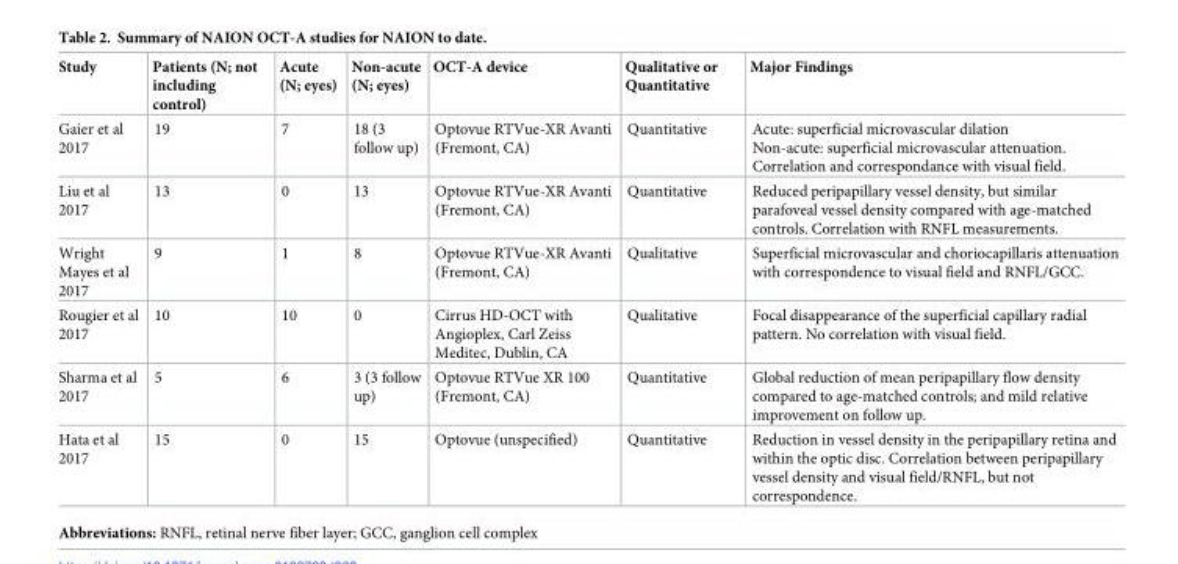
<table><thead><tr><td>Study</td><td>Patients (N; not including control)</td><td>Acute (N; eyes)</td><td>Non-acute (N; eyes)</td><td>OCT-A device</td><td>Qualitative or Quantitative</td><td>Major Findings</td></tr></thead><tbody><tr><td>Gaier et al 2017</td><td>19</td><td>7</td><td>18 (3 follow up)</td><td>Optovue RTVue-XR Avanti (Fremont, CA)</td><td>Quantitative</td><td>Acute: superficial microvascular dilation Non-acute: superficial microvascular attenuation. Correlation and correspondance with visual field.</td></tr><tr><td>Liu et al 2017</td><td>13</td><td>0</td><td>13</td><td>Optovue RTVue-XR Avanti (Fremont, CA)</td><td>Quantitative</td><td>Reduced peripapillary vessel density, but similar parafoveal vessel density compared with age-matched controls. Correlation with RNFL measurements.</td></tr><tr><td>Wright Mayes et al 2017</td><td>9</td><td>1</td><td>8</td><td>Optovue RTVue-XR Avanti (Fremont, CA)</td><td>Qualitative</td><td>Superficial microvascular and choriocapillaris attenuation with correspondence to visual field and RNFL/GCC.</td></tr><tr><td>Rougier et al 2017</td><td>10</td><td>10</td><td>0</td><td>Cirrus HD-OCT with Angioplex, Carl Zeiss Meditec, Dublin, CA</td><td>Qualitative</td><td>Focal disappearance of the superficial capillary radial pattern. No correlation with visual field.</td></tr><tr><td>Sharma et al 2017</td><td>5</td><td>6</td><td>3 (3 follow up)</td><td>Optovue RTVue XR 100 (Fremont, CA)</td><td>Quantitative</td><td>Global reduction of mean peripapillary flow density compared to age-matched controls; and mild relative improvement on follow up.</td></tr><tr><td>Hata et al 2017</td><td>15</td><td>0</td><td>15</td><td>Optovue (unspecified)</td><td>Quantitative</td><td>Reduction in vessel density in the peripapillary retina and within the optic disc. Correlation between peripapillary vessel density and visual field/RNFL, but not correspondence.</td></tr></tbody></table>